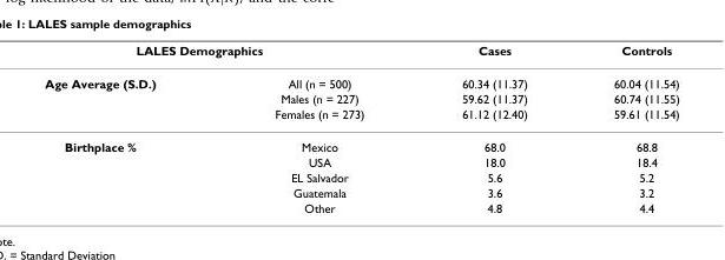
<table><thead><tr><td colspan="2">LALES Demographics</td><td rowspan="2">Cases 60.34 (11.37)</td><td rowspan="2">Controls 60.04 (11.54)</td></tr><tr><td>Age Average (S.D.)</td><td>All (n = 500)</td></tr></thead><tbody><tr><td></td><td>Males (n = 227)</td><td>59.62 (11.37)</td><td>60.74 (11.55)</td></tr><tr><td></td><td>Females (n = 273)</td><td>61.12 (12.40)</td><td>59.61 (11.54)</td></tr><tr><td rowspan="5">Birthplace %</td><td>Mexico</td><td>68.0</td><td>68.8</td></tr><tr><td>USA</td><td>18.0</td><td>18.4</td></tr><tr><td>EL Salvador</td><td>5.6</td><td>5.2</td></tr><tr><td>Guatemala</td><td>3.6</td><td>3.2</td></tr><tr><td>Other</td><td>4.8</td><td>4.4</td></tr></tbody></table>